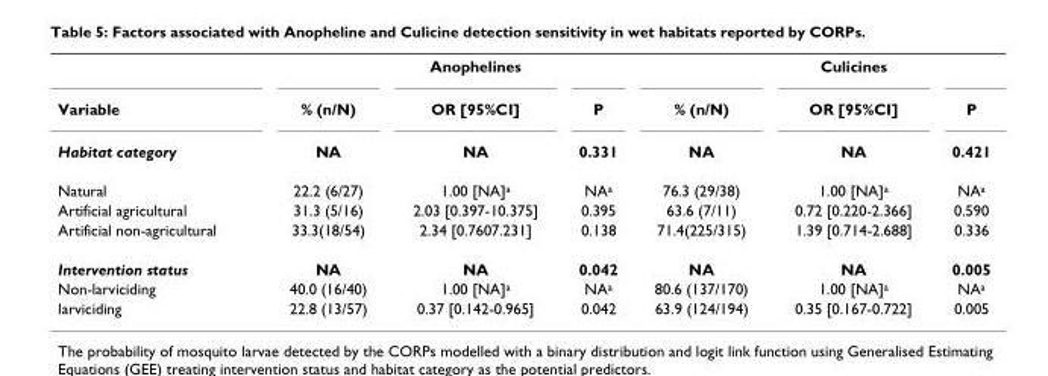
<table><thead><tr><td></td><td></td><td>Anophelines</td><td></td><td></td><td>Culicines</td><td></td></tr></thead><tbody><tr><td>Variable</td><td>% (n/N)</td><td>OR [95%CI]</td><td>P</td><td>% (n/N)</td><td>OR [95%CI]</td><td>P</td></tr><tr><td>Habitat category</td><td>NA</td><td>NA</td><td>0.331</td><td>NA</td><td>NA</td><td>0.421</td></tr><tr><td>Natural</td><td>22.2 (6/27)</td><td>1.00 [NA]<sup>a</sup></td><td>NA<sup>a</sup></td><td>76.3 (29/38)</td><td>1.00 [NA]<sup>a</sup></td><td>NA<sup>a</sup></td></tr><tr><td>Artificial agricultural</td><td>31.3 (5/16)</td><td>2.03 [0.397-10.375]</td><td>0.395</td><td>63.6 (7/11)</td><td>0.72 [0.220-2.366]</td><td>0.590</td></tr><tr><td>Artificial non-agricultural</td><td>33.3(18/54)</td><td>2.34 [0.7607.231]</td><td>0.138</td><td>71.4(225/315)</td><td>1.39 [0.714-2.688]</td><td>0.336</td></tr><tr><td>Intervention status</td><td>NA</td><td>NA</td><td>0.042</td><td>NA</td><td>NA</td><td>0.005</td></tr><tr><td>Non-larviciding</td><td>40.0 (16/40)</td><td>1.00 [NA]<sup>a</sup></td><td>NA<sup>a</sup></td><td>80.6 (137/170)</td><td>1.00 [NA]<sup>a</sup></td><td>NA<sup>a</sup></td></tr><tr><td>larviciding</td><td>22.8 (13/57)</td><td>0.37 [0.142-0.965]</td><td>0.042</td><td>63.9 (124/194)</td><td>0.35 [0.167-0.722]</td><td>0.005</td></tr></tbody></table>